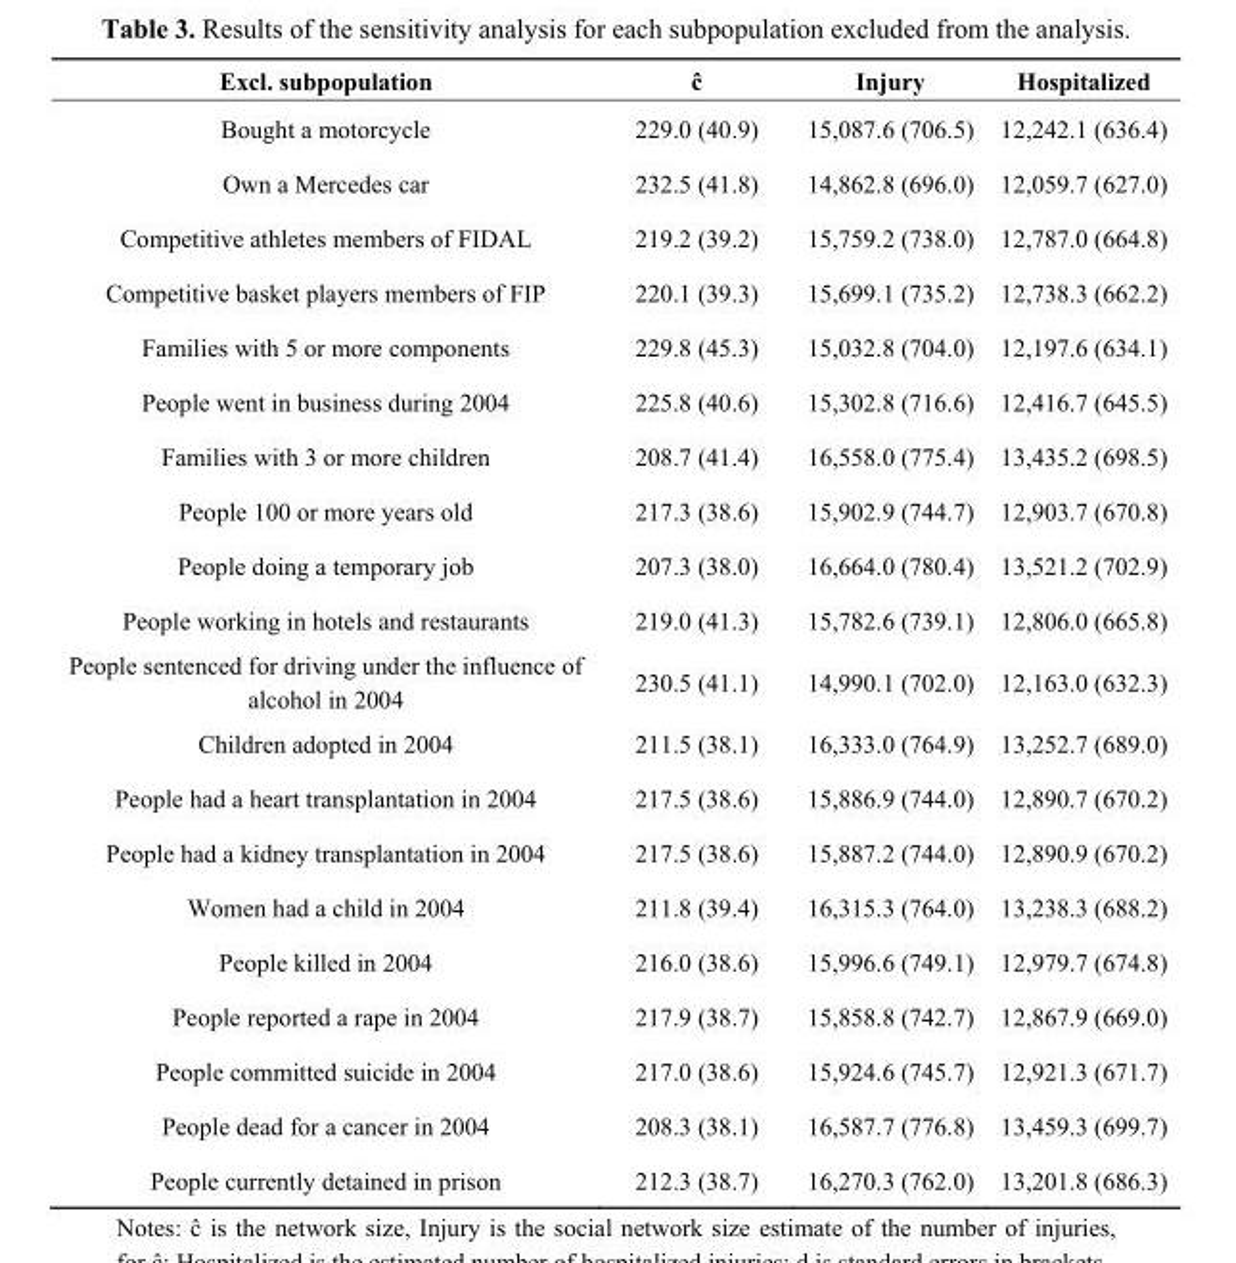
<table><thead><tr><td>Excl. subpopulation</td><td>ĉ</td><td>Injury</td><td>Hospitalized</td></tr></thead><tbody><tr><td>Bought a motorcycle</td><td>229.0 (40.9)</td><td>15,087.6 (706.5)</td><td>12,242.1 (636.4)</td></tr><tr><td>Own a Mercedes car</td><td>232.5 (41.8)</td><td>14,862.8 (696.0)</td><td>12,059.7 (627.0)</td></tr><tr><td>Competitive athletes members of FIDAL</td><td>219.2 (39.2)</td><td>15,759.2 (738.0)</td><td>12,787.0 (664.8)</td></tr><tr><td>Competitive basket players members of FIP</td><td>220.1 (39.3)</td><td>15,699.1 (735.2)</td><td>12,738.3 (662.2)</td></tr><tr><td>Families with 5 or more components</td><td>229.8 (45.3)</td><td>15,032.8 (704.0)</td><td>12,197.6 (634.1)</td></tr><tr><td>People went in business during 2004</td><td>225.8 (40.6)</td><td>15,302.8 (716.6)</td><td>12,416.7 (645.5)</td></tr><tr><td>Families with 3 or more children</td><td>208.7 (41.4)</td><td>16,558.0 (775.4)</td><td>13,435.2 (698.5)</td></tr><tr><td>People 100 or more years old</td><td>217.3 (38.6)</td><td>15,902.9 (744.7)</td><td>12,903.7 (670.8)</td></tr><tr><td>People doing a temporary job</td><td>207.3 (38.0)</td><td>16,664.0 (780.4)</td><td>13,521.2 (702.9)</td></tr><tr><td>People working in hotels and restaurants</td><td>219.0 (41.3)</td><td>15,782.6 (739.1)</td><td>12,806.0 (665.8)</td></tr><tr><td>People sentenced for driving under the influence of alcohol in 2004</td><td>230.5 (41.1)</td><td>14,990.1 (702.0)</td><td>12,163.0 (632.3)</td></tr><tr><td>Children adopted in 2004</td><td>211.5 (38.1)</td><td>16,333.0 (764.9)</td><td>13,252.7 (689.0)</td></tr><tr><td>People had a heart transplantation in 2004</td><td>217.5 (38.6)</td><td>15,886.9 (744.0)</td><td>12,890.7 (670.2)</td></tr><tr><td>People had a kidney transplantation in 2004</td><td>217.5 (38.6)</td><td>15,887.2 (744.0)</td><td>12,890.9 (670.2)</td></tr><tr><td>Women had a child in 2004</td><td>211.8 (39.4)</td><td>16,315.3 (764.0)</td><td>13,238.3 (688.2)</td></tr><tr><td>People killed in 2004</td><td>216.0 (38.6)</td><td>15,996.6 (749.1)</td><td>12,979.7 (674.8)</td></tr><tr><td>People reported a rape in 2004</td><td>217.9 (38.7)</td><td>15,858.8 (742.7)</td><td>12,867.9 (669.0)</td></tr><tr><td>People committed suicide in 2004</td><td>217.0 (38.6)</td><td>15,924.6 (745.7)</td><td>12,921.3 (671.7)</td></tr><tr><td>People dead for a cancer in 2004</td><td>208.3 (38.1)</td><td>16,587.7 (776.8)</td><td>13,459.3 (699.7)</td></tr><tr><td>People currently detained in prison</td><td>212.3 (38.7)</td><td>16,270.3 (762.0)</td><td>13,201.8 (686.3)</td></tr></tbody></table>